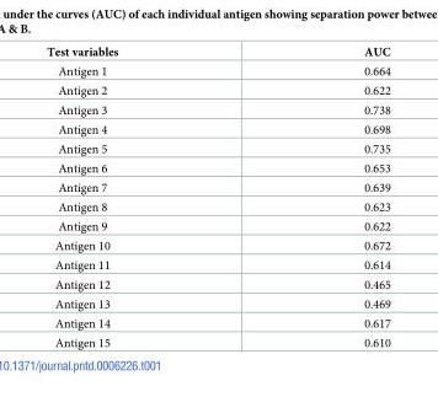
<table><thead><tr><td>Test variables</td><td>AUC</td></tr></thead><tbody><tr><td>Antigen 1</td><td>0.664</td></tr><tr><td>Antigen 2</td><td>0.622</td></tr><tr><td>Antigen 3</td><td>0.738</td></tr><tr><td>Antigen 4</td><td>0.698</td></tr><tr><td>Antigen 5</td><td>0.735</td></tr><tr><td>Antigen 6</td><td>0.653</td></tr><tr><td>Antigen 7</td><td>0.639</td></tr><tr><td>Antigen 8</td><td>0.623</td></tr><tr><td>Antigen 9</td><td>0.622</td></tr><tr><td>Antigen 10</td><td>0.672</td></tr><tr><td>Antigen 11</td><td>0.614</td></tr><tr><td>Antigen 12</td><td>0.465</td></tr><tr><td>Antigen 13</td><td>0.469</td></tr><tr><td>Antigen 14</td><td>0.617</td></tr><tr><td>Antigen 15</td><td>0.610</td></tr></tbody></table>